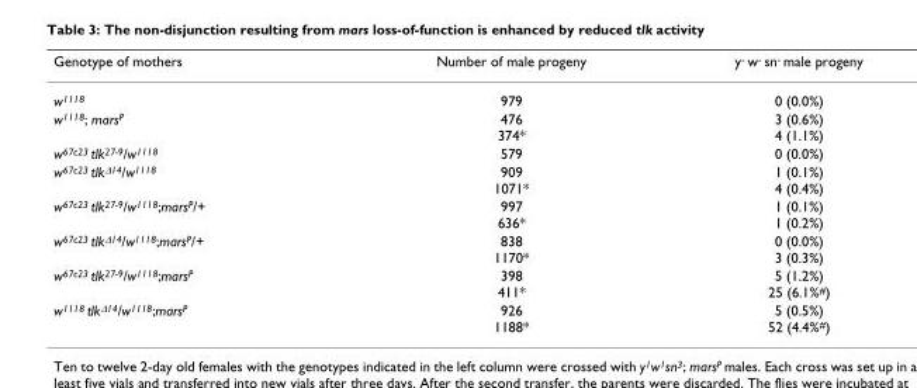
<table><thead><tr><td>Genotype of mothers</td><td>Number of male progeny</td><td>y<sup>-</sup> w<sup>-</sup> sn<sup>-</sup> male progeny</td></tr></thead><tbody><tr><td>w<sup>1118</sup></td><td>979</td><td>0 (0.0%)</td></tr><tr><td>w<sup>1118</sup>; mars<sup>P</sup></td><td>476 374*</td><td>3 (0.6%) 4 (1.1%)</td></tr><tr><td>w<sup>67c23</sup> tlk<sup>27-9</sup>/w<sup>1118</sup></td><td>579</td><td>0 (0.0%)</td></tr><tr><td>w<sup>67c23</sup> tlk<sup>Δ14</sup>/w<sup>1118</sup></td><td>909 1071*</td><td>1 (0.1%) 4 (0.4%)</td></tr><tr><td>w<sup>67c23</sup> tlk<sup>27-9</sup>/w<sup>1118</sup>;mars<sup>P</sup>/+</td><td>997 636*</td><td>1 (0.1%) 1 (0.2%)</td></tr><tr><td>w<sup>67c23</sup> tlk<sup>Δ14</sup>/w<sup>1118</sup>;mars<sup>P</sup>/+</td><td>838 1170*</td><td>0 (0.0%) 3 (0.3%)</td></tr><tr><td>w<sup>67c23</sup> tlk<sup>27-9</sup>/w<sup>1118</sup>;mars<sup>P</sup></td><td>398 411*</td><td>5 (1.2%) 25 (6.1%<sup>#</sup>)</td></tr><tr><td>w<sup>1118</sup> tlk<sup>Δ14</sup>/w<sup>1118</sup>;mars<sup>P</sup></td><td>926 1188*</td><td>5 (0.5%) 52 (4.4%<sup>#</sup>)</td></tr></tbody></table>